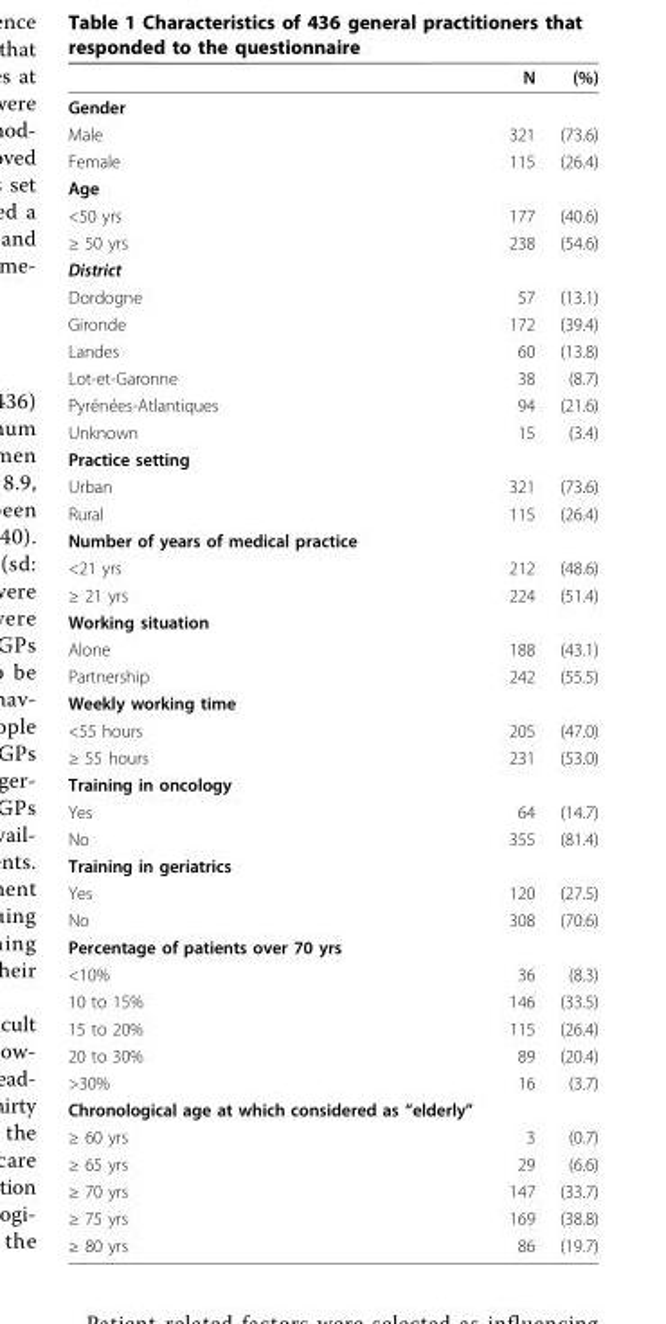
<table><thead><tr><td></td><td>N</td><td>(%)</td></tr></thead><tbody><tr><td colspan="3">Gender</td></tr><tr><td>Male</td><td>321</td><td>(73.6)</td></tr><tr><td>Female</td><td>115</td><td>(26.4)</td></tr><tr><td colspan="3">Age</td></tr><tr><td>&lt;50 yrs</td><td>177</td><td>(40.6)</td></tr><tr><td>≥ 50 yrs</td><td>238</td><td>(54.6)</td></tr><tr><td colspan="3">District</td></tr><tr><td>Dordogne</td><td>57</td><td>(13.1)</td></tr><tr><td>Gironde</td><td>172</td><td>(39.4)</td></tr><tr><td>Landes</td><td>60</td><td>(13.8)</td></tr><tr><td>Lot-et-Garonne</td><td>38</td><td>(8.7)</td></tr><tr><td>Pyrénées-Atlantiques</td><td>94</td><td>(21.6)</td></tr><tr><td>Unknown</td><td>15</td><td>(3.4)</td></tr><tr><td colspan="3">Practice setting</td></tr><tr><td>Urban</td><td>321</td><td>(73.6)</td></tr><tr><td>Rural</td><td>115</td><td>(26.4)</td></tr><tr><td colspan="3">Number of years of medical practice</td></tr><tr><td>&lt;21 yrs</td><td>212</td><td>(48.6)</td></tr><tr><td>≥ 21 yrs</td><td>224</td><td>(51.4)</td></tr><tr><td colspan="3">Working situation</td></tr><tr><td>Alone</td><td>188</td><td>(43.1)</td></tr><tr><td>Partnership</td><td>242</td><td>(55.5)</td></tr><tr><td colspan="3">Weekly working time</td></tr><tr><td>&lt;55 hours</td><td>205</td><td>(47.0)</td></tr><tr><td>≥ 55 hours</td><td>231</td><td>(53.0)</td></tr><tr><td colspan="3">Training in oncology</td></tr><tr><td>Yes</td><td>64</td><td>(14.7)</td></tr><tr><td>No</td><td>355</td><td>(81.4)</td></tr><tr><td colspan="3">Training in geriatrics</td></tr><tr><td>Yes</td><td>120</td><td>(27.5)</td></tr><tr><td>No</td><td>308</td><td>(70.6)</td></tr><tr><td colspan="3">Percentage of patients over 70 yrs</td></tr><tr><td>&lt;10%</td><td>36</td><td>(8.3)</td></tr><tr><td>10 to 15%</td><td>146</td><td>(33.5)</td></tr><tr><td>15 to 20%</td><td>115</td><td>(26.4)</td></tr><tr><td>20 to 30%</td><td>89</td><td>(20.4)</td></tr><tr><td>&gt;30%</td><td>16</td><td>(3.7)</td></tr><tr><td colspan="3">Chronological age at which considered as “elderly”</td></tr><tr><td>≥ 60 yrs</td><td>3</td><td>(0.7)</td></tr><tr><td>≥ 65 yrs</td><td>29</td><td>(6.6)</td></tr><tr><td>≥ 70 yrs</td><td>147</td><td>(33.7)</td></tr><tr><td>≥ 75 yrs</td><td>169</td><td>(38.8)</td></tr><tr><td>≥ 80 yrs</td><td>86</td><td>(19.7)</td></tr></tbody></table>